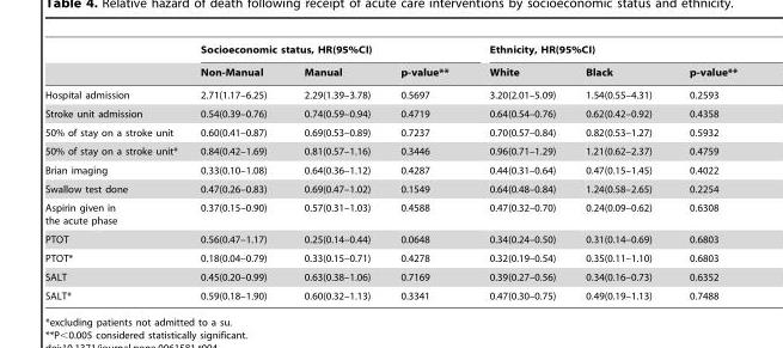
<table><thead><tr><td rowspan="2"></td><td colspan="3">Socioeconomic status, HR(95%CI)</td><td colspan="3">Ethnicity, HR(95%CI)</td></tr><tr><td>Non-Manual</td><td>Manual</td><td>p-value**</td><td>White</td><td>Black</td><td>p-value**</td></tr></thead><tbody><tr><td>Hospital admission</td><td>2.71(1.17–6.25)</td><td>2.29(1.39–3.78)</td><td>0.5697</td><td>3.20(2.01–5.09)</td><td>1.54(0.55–4.31)</td><td>0.2593</td></tr><tr><td>Stroke unit admission</td><td>0.54(0.39–0.76)</td><td>0.74(0.59–0.94)</td><td>0.4719</td><td>0.64(0.54–0.76)</td><td>0.62(0.42–0.92)</td><td>0.4358</td></tr><tr><td>50% of stay on a stroke unit</td><td>0.60(0.41–0.87)</td><td>0.69(0.53–0.89)</td><td>0.7237</td><td>0.70(0.57–0.84)</td><td>0.82(0.53–1.27)</td><td>0.5932</td></tr><tr><td>50% of stay on a stroke unit*</td><td>0.84(0.42–1.69)</td><td>0.81(0.57–1.16)</td><td>0.3446</td><td>0.96(0.71–1.29)</td><td>1.21(0.62–2.37)</td><td>0.4759</td></tr><tr><td>Brian imaging</td><td>0.33(0.10–1.08)</td><td>0.64(0.36–1.12)</td><td>0.4287</td><td>0.44(0.31–0.64)</td><td>0.47(0.15–1.45)</td><td>0.4022</td></tr><tr><td>Swallow test done</td><td>0.47(0.26–0.83)</td><td>0.69(0.47–1.02)</td><td>0.1549</td><td>0.64(0.48–0.84)</td><td>1.24(0.58–2.65)</td><td>0.2254</td></tr><tr><td>Aspirin given in the acute phase</td><td>0.37(0.15–0.90)</td><td>0.57(0.31–1.03)</td><td>0.4588</td><td>0.47(0.32–0.70)</td><td>0.24(0.09–0.62)</td><td>0.6308</td></tr><tr><td>PTOT</td><td>0.56(0.47–1.17)</td><td>0.25(0.14–0.44)</td><td>0.0648</td><td>0.34(0.24–0.50)</td><td>0.31(0.14–0.69)</td><td>0.6803</td></tr><tr><td>PTOT*</td><td>0.18(0.04–0.79)</td><td>0.33(0.15–0.71)</td><td>0.4278</td><td>0.32(0.19–0.54)</td><td>0.35(0.11–1.10)</td><td>0.6803</td></tr><tr><td>SALT</td><td>0.45(0.20–0.99)</td><td>0.63(0.38–1.06)</td><td>0.7169</td><td>0.39(0.27–0.56)</td><td>0.34(0.16–0.73)</td><td>0.6352</td></tr><tr><td>SALT*</td><td>0.59(0.18–1.90)</td><td>0.60(0.32–1.13)</td><td>0.3341</td><td>0.47(0.30–0.75)</td><td>0.49(0.19–1.13)</td><td>0.7488</td></tr></tbody></table>